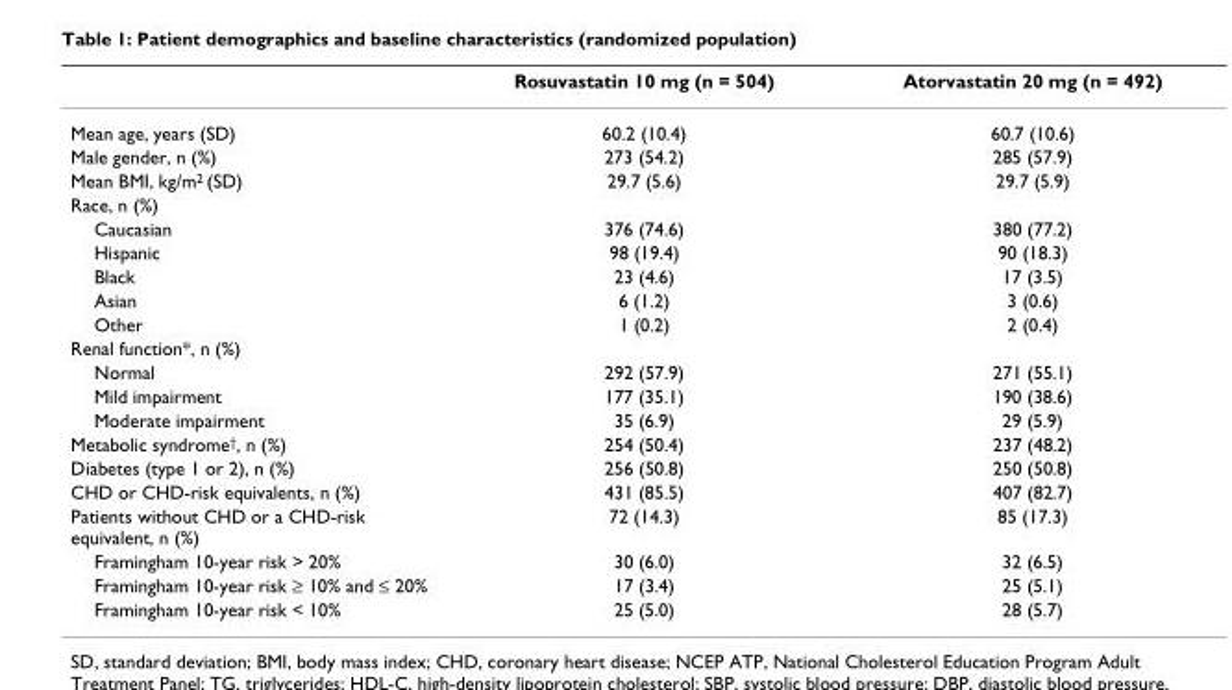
<table><thead><tr><td></td><td>Rosuvastatin 10 mg (n = 504)</td><td>Atorvastatin 20 mg (n = 492)</td></tr></thead><tbody><tr><td>Mean age, years (SD)</td><td>60.2 (10.4)</td><td>60.7 (10.6)</td></tr><tr><td>Male gender, n (%)</td><td>273 (54.2)</td><td>285 (57.9)</td></tr><tr><td>Mean BMI, kg/m<sup>2</sup> (SD)</td><td>29.7 (5.6)</td><td>29.7 (5.9)</td></tr><tr><td colspan="3">Race, n (%)</td></tr><tr><td>Caucasian</td><td>376 (74.6)</td><td>380 (77.2)</td></tr><tr><td>Hispanic</td><td>98 (19.4)</td><td>90 (18.3)</td></tr><tr><td>Black</td><td>23 (4.6)</td><td>17 (3.5)</td></tr><tr><td>Asian</td><td>6 (1.2)</td><td>3 (0.6)</td></tr><tr><td>Other</td><td>1 (0.2)</td><td>2 (0.4)</td></tr><tr><td colspan="3">Renal function*, n (%)</td></tr><tr><td>Normal</td><td>292 (57.9)</td><td>271 (55.1)</td></tr><tr><td>Mild impairment</td><td>177 (35.1)</td><td>190 (38.6)</td></tr><tr><td>Moderate impairment</td><td>35 (6.9)</td><td>29 (5.9)</td></tr><tr><td>Metabolic syndrome<sup>†</sup>, n (%)</td><td>254 (50.4)</td><td>237 (48.2)</td></tr><tr><td>Diabetes (type 1 or 2), n (%)</td><td>256 (50.8)</td><td>250 (50.8)</td></tr><tr><td>CHD or CHD-risk equivalents, n (%)</td><td>431 (85.5)</td><td>407 (82.7)</td></tr><tr><td>Patients without CHD or a CHD-risk equivalent, n (%)</td><td>72 (14.3)</td><td>85 (17.3)</td></tr><tr><td>Framingham 10-year risk &gt; 20%</td><td>30 (6.0)</td><td>32 (6.5)</td></tr><tr><td>Framingham 10-year risk ≥ 10% and ≤ 20%</td><td>17 (3.4)</td><td>25 (5.1)</td></tr><tr><td>Framingham 10-year risk &lt; 10%</td><td>25 (5.0)</td><td>28 (5.7)</td></tr></tbody></table>